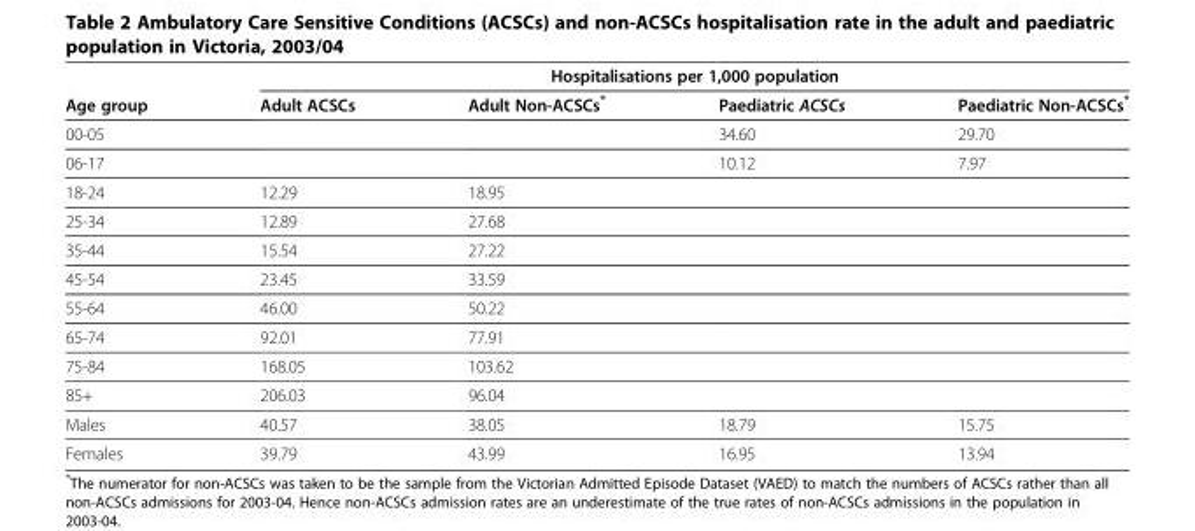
<table><thead><tr><td rowspan="2">Age group</td><td colspan="4">Hospitalisations per 1,000 population</td></tr><tr><td>Adult ACSCs</td><td>Adult Non-ACSCs*</td><td>Paediatric ACSCs</td><td>Paediatric Non-ACSCs*</td></tr></thead><tbody><tr><td>00-05</td><td></td><td></td><td>34.60</td><td>29.70</td></tr><tr><td>06-17</td><td></td><td></td><td>10.12</td><td>7.97</td></tr><tr><td>18-24</td><td>12.29</td><td>18.95</td><td></td><td></td></tr><tr><td>25-34</td><td>12.89</td><td>27.68</td><td></td><td></td></tr><tr><td>35-44</td><td>15.54</td><td>27.22</td><td></td><td></td></tr><tr><td>45-54</td><td>23.45</td><td>33.59</td><td></td><td></td></tr><tr><td>55-64</td><td>46.00</td><td>50.22</td><td></td><td></td></tr><tr><td>65-74</td><td>92.01</td><td>77.91</td><td></td><td></td></tr><tr><td>75-84</td><td>168.05</td><td>103.62</td><td></td><td></td></tr><tr><td>85+</td><td>206.03</td><td>96.04</td><td></td><td></td></tr><tr><td>Males</td><td>40.57</td><td>38.05</td><td>18.79</td><td>15.75</td></tr><tr><td>Females</td><td>39.79</td><td>43.99</td><td>16.95</td><td>13.94</td></tr></tbody></table>